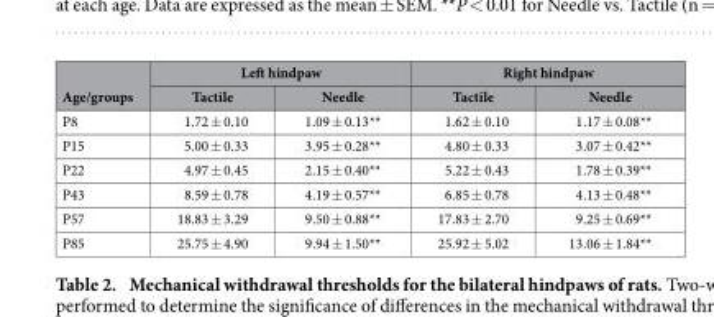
<table><thead><tr><td rowspan="2">Age/groups</td><td colspan="2">Left hindpaw</td><td colspan="2">Right hindpaw</td></tr><tr><td>Tactile</td><td>Needle</td><td>Tactile</td><td>Needle</td></tr></thead><tbody><tr><td>P8</td><td>1.72 ± 0.10</td><td>1.09 ± 0.13**</td><td>1.62 ± 0.10</td><td>1.17 ± 0.08**</td></tr><tr><td>P15</td><td>5.00 ± 0.33</td><td>3.95 ± 0.28**</td><td>4.80 ± 0.33</td><td>3.07 ± 0.42**</td></tr><tr><td>P22</td><td>4.97 ± 0.45</td><td>2.15 ± 0.40**</td><td>5.22 ± 0.43</td><td>1.78 ± 0.39**</td></tr><tr><td>P43</td><td>8.59 ± 0.78</td><td>4.19 ± 0.57**</td><td>6.85 ± 0.78</td><td>4.13 ± 0.48**</td></tr><tr><td>P57</td><td>18.83 ± 3.29</td><td>9.50 ± 0.88**</td><td>17.83 ± 2.70</td><td>9.25 ± 0.69**</td></tr><tr><td>P85</td><td>25.75 ± 4.90</td><td>9.94 ± 1.50**</td><td>25.92 ± 5.02</td><td>13.06 ± 1.84**</td></tr></tbody></table>